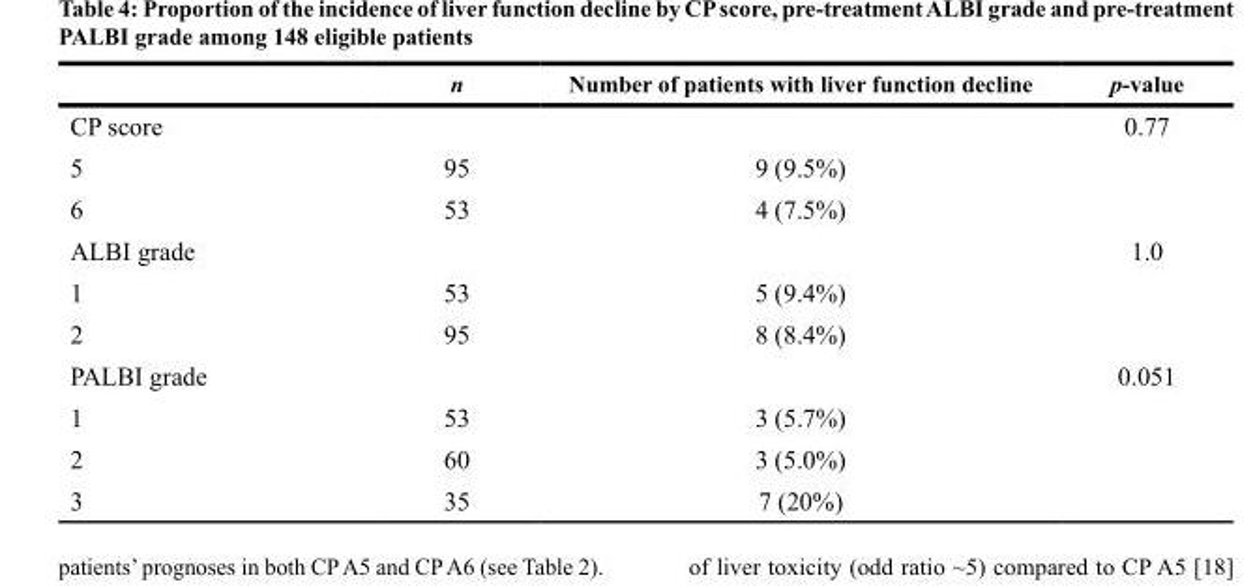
<table><thead><tr><td></td><td>n</td><td>Number of patients with liver function decline</td><td>p-value</td></tr></thead><tbody><tr><td>CP score</td><td></td><td></td><td>0.77</td></tr><tr><td>5</td><td>95</td><td>9 (9.5%)</td><td></td></tr><tr><td>6</td><td>53</td><td>4 (7.5%)</td><td></td></tr><tr><td>ALBI grade</td><td></td><td></td><td>1.0</td></tr><tr><td>1</td><td>53</td><td>5 (9.4%)</td><td></td></tr><tr><td>2</td><td>95</td><td>8 (8.4%)</td><td></td></tr><tr><td>PALBI grade</td><td></td><td></td><td>0.051</td></tr><tr><td>1</td><td>53</td><td>3 (5.7%)</td><td></td></tr><tr><td>2</td><td>60</td><td>3 (5.0%)</td><td></td></tr><tr><td>3</td><td>35</td><td>7 (20%)</td><td></td></tr></tbody></table>